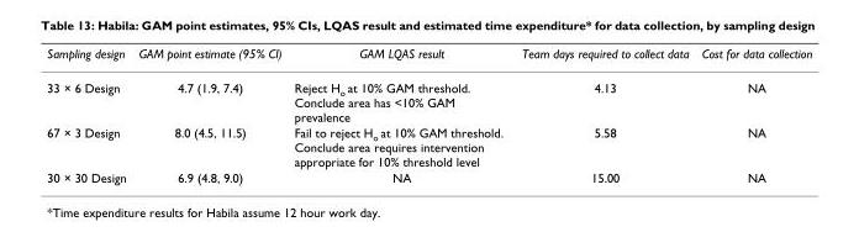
<table><thead><tr><td>Sampling design</td><td>GAM point estimate (95% CI)</td><td>GAM LQAS result</td><td>Team days required to collect data</td><td>Cost for data collection</td></tr></thead><tbody><tr><td>33 × 6 Design</td><td>4.7 (1.9, 7.4)</td><td>Reject H<sub>o</sub> at 10% GAM threshold. Conclude area has &lt;10% GAM prevalence</td><td>4.13</td><td>NA</td></tr><tr><td>67 × 3 Design</td><td>8.0 (4.5, 11.5)</td><td>Fail to reject H<sub>o</sub> at 10% GAM threshold. Conclude area requires intervention appropriate for 10% threshold level</td><td>5.58</td><td>NA</td></tr><tr><td>30 × 30 Design</td><td>6.9 (4.8, 9.0)</td><td>NA</td><td>15.00</td><td>NA</td></tr></tbody></table>